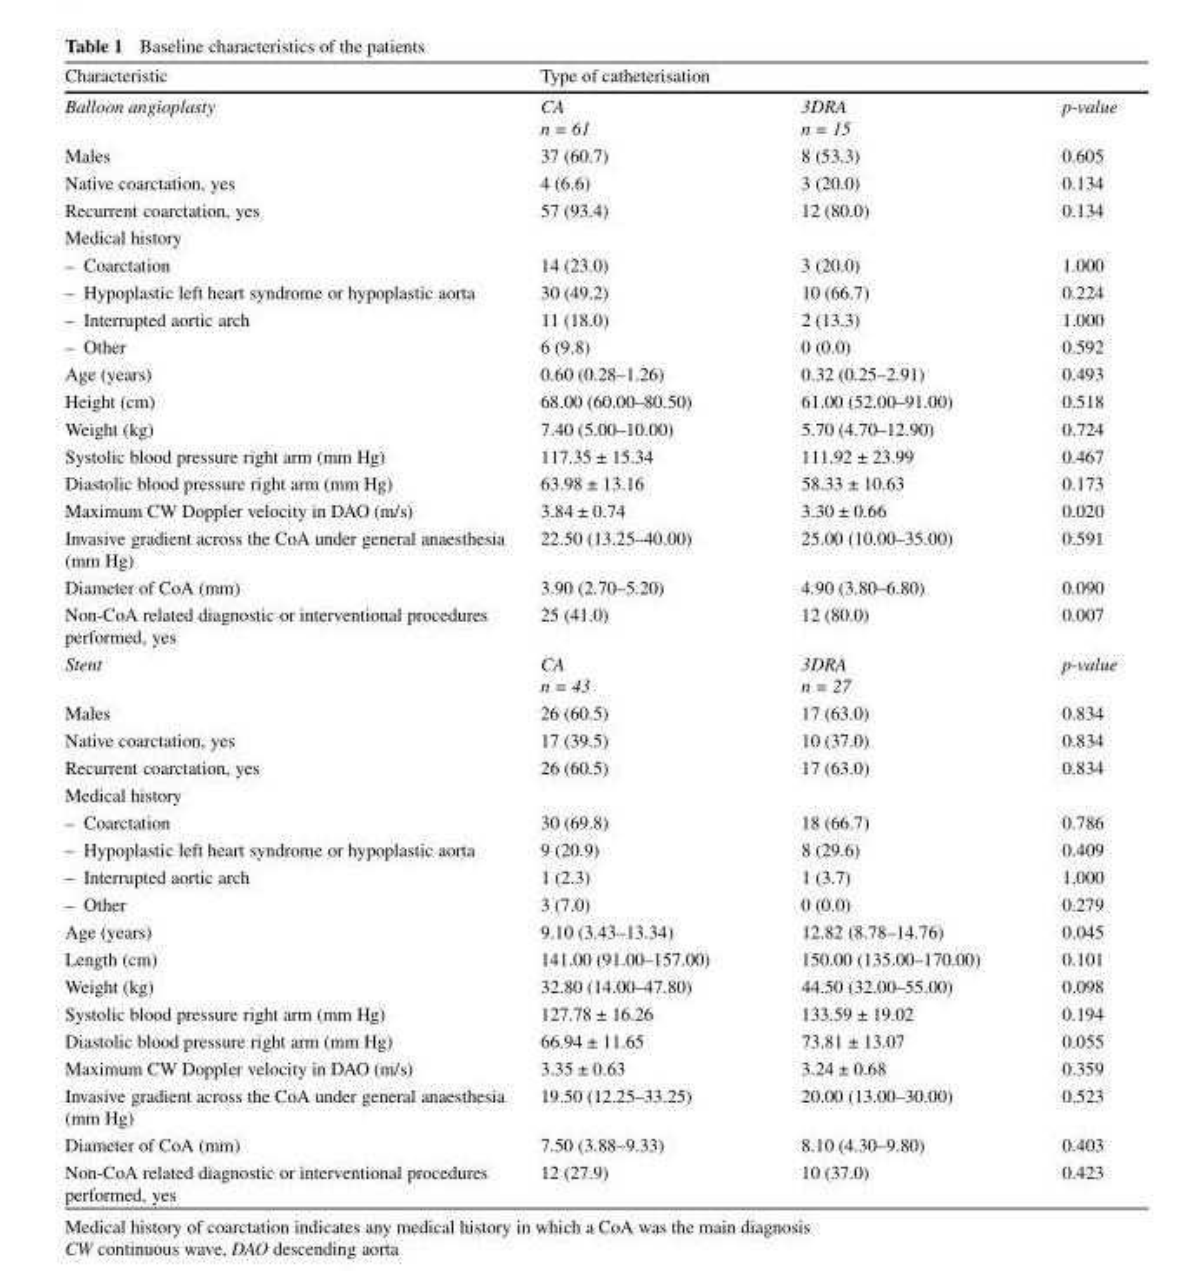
<table><thead><tr><td rowspan="2">Characteristic Balloon angioplasty</td><td colspan="2">Type of catheterisation</td><td rowspan="2">p-value</td></tr><tr><td>CA n = 61</td><td>3DRA n = 15</td></tr></thead><tbody><tr><td>Males</td><td>37 (60.7)</td><td>8 (53.3)</td><td>0.605</td></tr><tr><td>Native coarctation, yes</td><td>4 (6.6)</td><td>3 (20.0)</td><td>0.134</td></tr><tr><td>Recurrent coarctation, yes</td><td>57 (93.4)</td><td>12 (80.0)</td><td>0.134</td></tr><tr><td colspan="4">Medical history</td></tr><tr><td>– Coarctation</td><td>14 (23.0)</td><td>3 (20.0)</td><td>1.000</td></tr><tr><td>– Hypoplastic left heart syndrome or hypoplastic aorta</td><td>30 (49.2)</td><td>10 (66.7)</td><td>0.224</td></tr><tr><td>– Interrupted aortic arch</td><td>11 (18.0)</td><td>2 (13.3)</td><td>1.000</td></tr><tr><td>– Other</td><td>6 (9.8)</td><td>0 (0.0)</td><td>0.592</td></tr><tr><td>Age (years)</td><td>0.60 (0.28–1.26)</td><td>0.32 (0.25–2.91)</td><td>0.493</td></tr><tr><td>Height (cm)</td><td>68.00 (60.00–80.50)</td><td>61.00 (52.00–91.00)</td><td>0.518</td></tr><tr><td>Weight (kg)</td><td>7.40 (5.00–10.00)</td><td>5.70 (4.70–12.90)</td><td>0.724</td></tr><tr><td>Systolic blood pressure right arm (mm Hg)</td><td>117.35 ± 15.34</td><td>111.92 ± 23.99</td><td>0.467</td></tr><tr><td>Diastolic blood pressure right arm (mm Hg)</td><td>63.98 ± 13.16</td><td>58.33 ± 10.63</td><td>0.173</td></tr><tr><td>Maximum CW Doppler velocity in DAO (m/s)</td><td>3.84 ± 0.74</td><td>3.30 ± 0.66</td><td>0.020</td></tr><tr><td>Invasive gradient across the CoA under general anaesthesia (mm Hg)</td><td>22.50 (13.25–40.00)</td><td>25.00 (10.00–35.00)</td><td>0.591</td></tr><tr><td>Diameter of CoA (mm)</td><td>3.90 (2.70–5.20)</td><td>4.90 (3.80–6.80)</td><td>0.090</td></tr><tr><td>Non-CoA related diagnostic or interventional procedures performed, yes</td><td>25 (41.0)</td><td>12 (80.0)</td><td>0.007</td></tr><tr><td>Stent</td><td>CA n = 43</td><td>3DRA n = 27</td><td>p-value</td></tr><tr><td>Males</td><td>26 (60.5)</td><td>17 (63.0)</td><td>0.834</td></tr><tr><td>Native coarctation, yes</td><td>17 (39.5)</td><td>10 (37.0)</td><td>0.834</td></tr><tr><td>Recurrent coarctation, yes</td><td>26 (60.5)</td><td>17 (63.0)</td><td>0.834</td></tr><tr><td colspan="4">Medical history</td></tr><tr><td>– Coarctation</td><td>30 (69.8)</td><td>18 (66.7)</td><td>0.786</td></tr><tr><td>– Hypoplastic left heart syndrome or hypoplastic aorta</td><td>9 (20.9)</td><td>8 (29.6)</td><td>0.409</td></tr><tr><td>– Interrupted aortic arch</td><td>1 (2.3)</td><td>1 (3.7)</td><td>1.000</td></tr><tr><td>– Other</td><td>3 (7.0)</td><td>0 (0.0)</td><td>0.279</td></tr><tr><td>Age (years)</td><td>9.10 (3.43–13.34)</td><td>12.82 (8.78–14.76)</td><td>0.045</td></tr><tr><td>Length (cm)</td><td>141.00 (91.00–157.00)</td><td>150.00 (135.00–170.00)</td><td>0.101</td></tr><tr><td>Weight (kg)</td><td>32.80 (14.00–47.80)</td><td>44.50 (32.00–55.00)</td><td>0.098</td></tr><tr><td>Systolic blood pressure right arm (mm Hg)</td><td>127.78 ± 16.26</td><td>133.59 ± 19.02</td><td>0.194</td></tr><tr><td>Diastolic blood pressure right arm (mm Hg)</td><td>66.94 ± 11.65</td><td>73.81 ± 13.07</td><td>0.055</td></tr><tr><td>Maximum CW Doppler velocity in DAO (m/s)</td><td>3.35 ± 0.63</td><td>3.24 ± 0.68</td><td>0.359</td></tr><tr><td>Invasive gradient across the CoA under general anaesthesia (mm Hg)</td><td>19.50 (12.25–33.25)</td><td>20.00 (13.00–30.00)</td><td>0.523</td></tr><tr><td>Diameter of CoA (mm)</td><td>7.50 (3.88–9.33)</td><td>8.10 (4.30–9.80)</td><td>0.403</td></tr><tr><td>Non-CoA related diagnostic or interventional procedures performed, yes</td><td>12 (27.9)</td><td>10 (37.0)</td><td>0.423</td></tr></tbody></table>